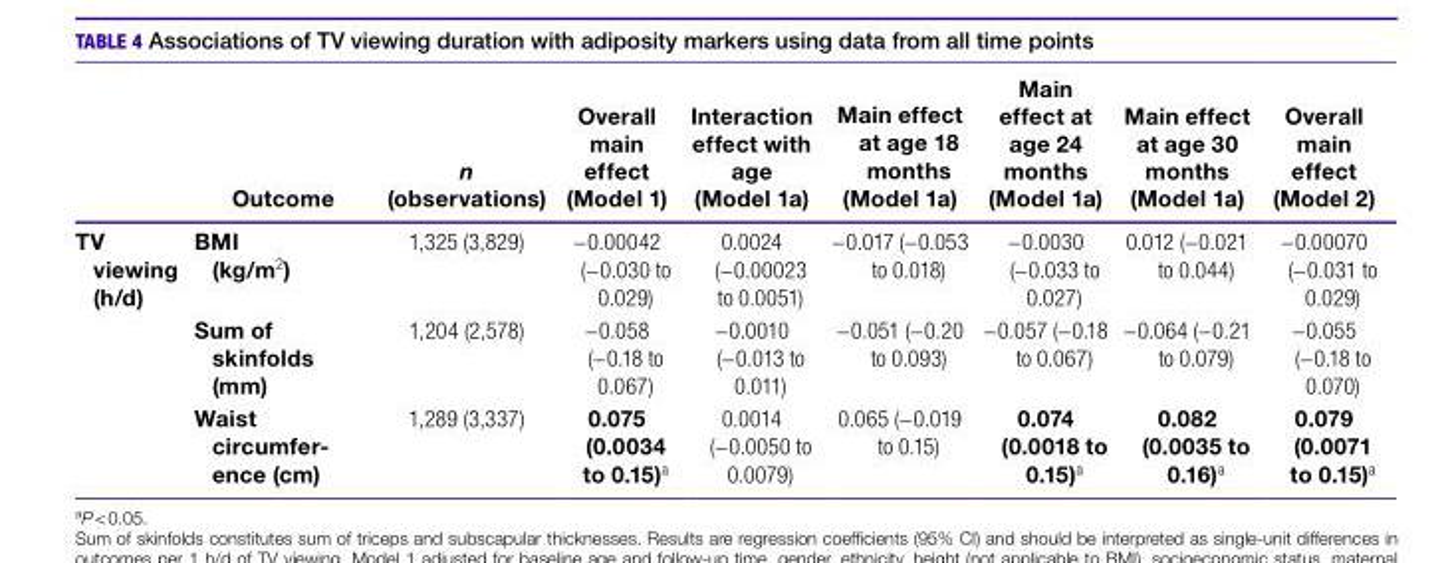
<table><thead><tr><td></td><td>Outcome</td><td>n (observations)</td><td>Overall main effect (Model 1)</td><td>Interaction effect with age (Model 1a)</td><td>Main effect at age 18 months (Model 1a)</td><td>Main effect at age 24 months (Model 1a)</td><td>Main effect at age 30 months (Model 1a)</td><td>Overall main effect (Model 2)</td></tr></thead><tbody><tr><td rowspan="3">TV viewing (h/d)</td><td>BMI (kg/m<sup>2</sup>)</td><td>1,325 (3,829)</td><td>−0.00042 (−0.030 to 0.029)</td><td>0.0024 (−0.00023 to 0.0051)</td><td>−0.017 (−0.053 to 0.018)</td><td>−0.0030 (−0.033 to 0.027)</td><td>0.012 (−0.021 to 0.044)</td><td>−0.00070 (−0.031 to 0.029)</td></tr><tr><td>Sum of skinfolds (mm)</td><td>1,204 (2,578)</td><td>−0.058 (−0.18 to 0.067)</td><td>−0.0010 (−0.013 to 0.011)</td><td>−0.051 (−0.20 to 0.093)</td><td>−0.057 (−0.18 to 0.067)</td><td>−0.064 (−0.21 to 0.079)</td><td>−0.055 (−0.18 to 0.070)</td></tr><tr><td>Waist circumfer- ence (cm)</td><td>1,289 (3,337)</td><td>0.075 (0.0034 to 0.15)<sup>a</sup></td><td>0.0014 (−0.0050 to 0.0079)</td><td>0.065 (−0.019 to 0.15)</td><td>0.074 (0.0018 to 0.15)<sup>a</sup></td><td>0.082 (0.0035 to 0.16)<sup>a</sup></td><td>0.079 (0.0071 to 0.15)<sup>a</sup></td></tr></tbody></table>